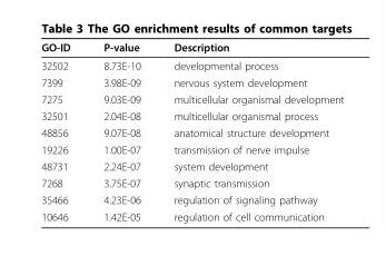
<table><thead><tr><td>GO-ID</td><td>P-value</td><td>Description</td></tr></thead><tbody><tr><td>32502</td><td>8.73E-10</td><td>developmental process</td></tr><tr><td>7399</td><td>3.98E-09</td><td>nervous system development</td></tr><tr><td>7275</td><td>9.03E-09</td><td>multicellular organismal development</td></tr><tr><td>32501</td><td>2.04E-08</td><td>multicellular organismal process</td></tr><tr><td>48856</td><td>9.07E-08</td><td>anatomical structure development</td></tr><tr><td>19226</td><td>1.00E-07</td><td>transmission of nerve impulse</td></tr><tr><td>48731</td><td>2.24E-07</td><td>system development</td></tr><tr><td>7268</td><td>3.75E-07</td><td>synaptic transmission</td></tr><tr><td>35466</td><td>4.23E-06</td><td>regulation of signaling pathway</td></tr><tr><td>10646</td><td>1.42E-05</td><td>regulation of cell communication</td></tr></tbody></table>